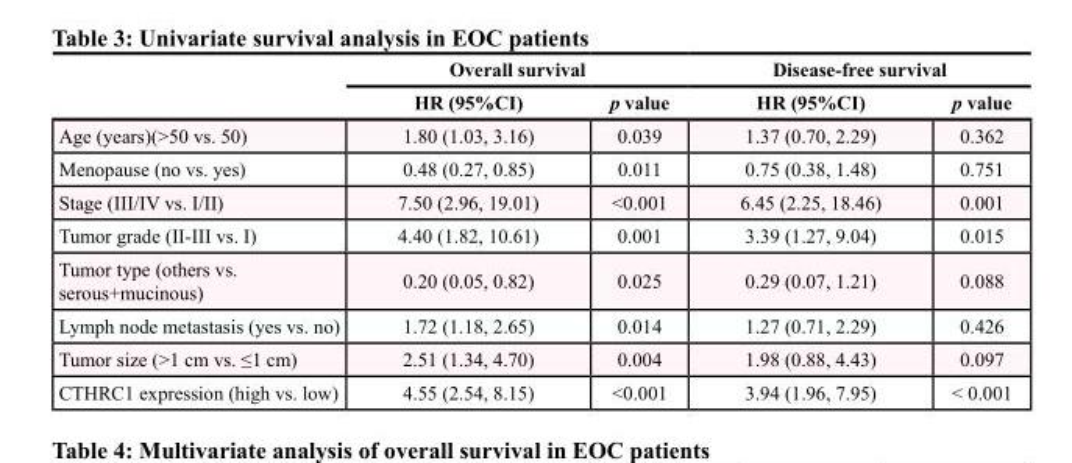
<table><thead><tr><td rowspan="2"></td><td colspan="2">Overall survival</td><td colspan="2">Disease-free survival</td></tr><tr><td>HR (95%CI)</td><td>p value</td><td>HR (95%CI)</td><td>p value</td></tr></thead><tbody><tr><td>Age (years)(&gt;50 vs. 50)</td><td>1.80 (1.03, 3.16)</td><td>0.039</td><td>1.37 (0.70, 2.29)</td><td>0.362</td></tr><tr><td>Menopause (no vs. yes)</td><td>0.48 (0.27, 0.85)</td><td>0.011</td><td>0.75 (0.38, 1.48)</td><td>0.751</td></tr><tr><td>Stage (III/IV vs. I/II)</td><td>7.50 (2.96, 19.01)</td><td>&lt;0.001</td><td>6.45 (2.25, 18.46)</td><td>0.001</td></tr><tr><td>Tumor grade (II-III vs. I)</td><td>4.40 (1.82, 10.61)</td><td>0.001</td><td>3.39 (1.27, 9.04)</td><td>0.015</td></tr><tr><td>Tumor type (others vs. serous+mucinous)</td><td>0.20 (0.05, 0.82)</td><td>0.025</td><td>0.29 (0.07, 1.21)</td><td>0.088</td></tr><tr><td>Lymph node metastasis (yes vs. no)</td><td>1.72 (1.18, 2.65)</td><td>0.014</td><td>1.27 (0.71, 2.29)</td><td>0.426</td></tr><tr><td>Tumor size (&gt;1 cm vs. ≤1 cm)</td><td>2.51 (1.34, 4.70)</td><td>0.004</td><td>1.98 (0.88, 4.43)</td><td>0.097</td></tr><tr><td>CTHRC1 expression (high vs. low)</td><td>4.55 (2.54, 8.15)</td><td>&lt;0.001</td><td>3.94 (1.96, 7.95)</td><td>&lt; 0.001</td></tr></tbody></table>